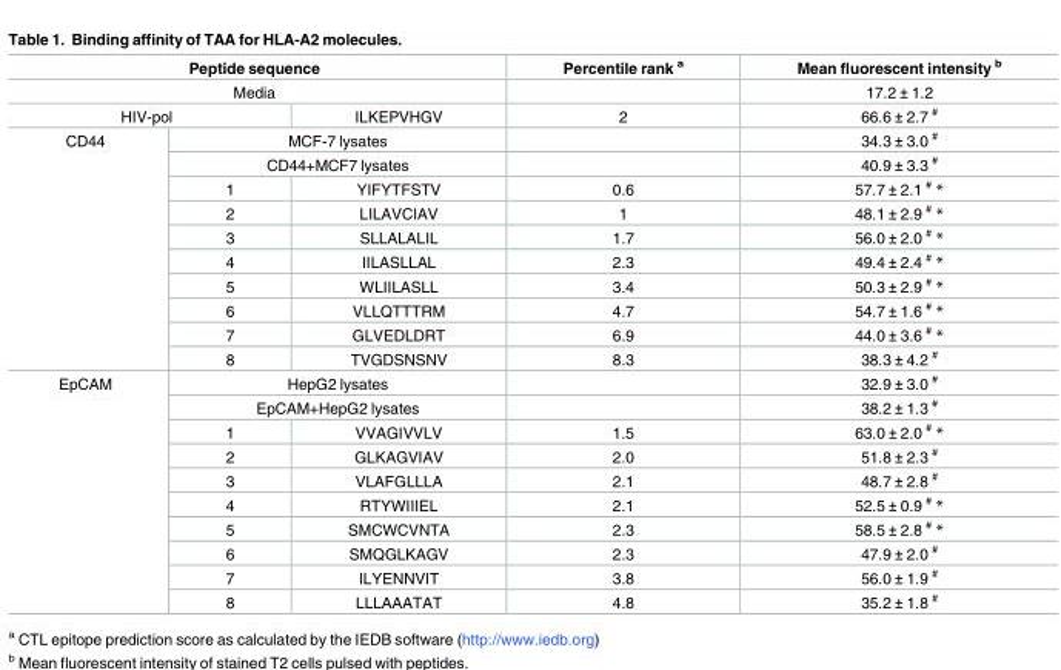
<table><thead><tr><td colspan="3">Peptide sequence</td><td>Percentile rank <sup>a</sup></td><td>Mean fluorescent intensity <sup>b</sup></td></tr></thead><tbody><tr><td colspan="3">Media</td><td></td><td>17.2 ± 1.2</td></tr><tr><td colspan="2">HIV-pol</td><td>ILKEPVHGV</td><td>2</td><td>66.6 ± 2.7 <sup>#</sup></td></tr><tr><td rowspan="10">CD44</td><td colspan="2">MCF-7 lysates</td><td></td><td>34.3 ± 3.0 <sup>#</sup></td></tr><tr><td colspan="2">CD44+MCF7 lysates</td><td></td><td>40.9 ± 3.3 <sup>#</sup></td></tr><tr><td>1</td><td>YIFYTFSTV</td><td>0.6</td><td>57.7 ± 2.1 <sup>#</sup> *</td></tr><tr><td>2</td><td>LILAVCIAV</td><td>1</td><td>48.1 ± 2.9 <sup>#</sup> *</td></tr><tr><td>3</td><td>SLLALALIL</td><td>1.7</td><td>56.0 ± 2.0 <sup>#</sup> *</td></tr><tr><td>4</td><td>IILASLLAL</td><td>2.3</td><td>49.4 ± 2.4 <sup>#</sup> *</td></tr><tr><td>5</td><td>WLIILASLL</td><td>3.4</td><td>50.3 ± 2.9 <sup>#</sup> *</td></tr><tr><td>6</td><td>VLLQTTTRM</td><td>4.7</td><td>54.7 ± 1.6 <sup>#</sup> *</td></tr><tr><td>7</td><td>GLVEDLDRT</td><td>6.9</td><td>44.0 ± 3.6 <sup>#</sup> *</td></tr><tr><td>8</td><td>TVGDSNSNV</td><td>8.3</td><td>38.3 ± 4.2 <sup>#</sup></td></tr><tr><td rowspan="10">EpCAM</td><td colspan="2">HepG2 lysates</td><td></td><td>32.9 ± 3.0 <sup>#</sup></td></tr><tr><td colspan="2">EpCAM+HepG2 lysates</td><td></td><td>38.2 ± 1.3 <sup>#</sup></td></tr><tr><td>1</td><td>VVAGIVVLV</td><td>1.5</td><td>63.0 ± 2.0 <sup>#</sup> *</td></tr><tr><td>2</td><td>GLKAGVIAV</td><td>2.0</td><td>51.8 ± 2.3 <sup>#</sup></td></tr><tr><td>3</td><td>VLAFGLLLA</td><td>2.1</td><td>48.7 ± 2.8 <sup>#</sup></td></tr><tr><td>4</td><td>RTYWIIIEL</td><td>2.1</td><td>52.5 ± 0.9 <sup>#</sup> *</td></tr><tr><td>5</td><td>SMCWCVNTA</td><td>2.3</td><td>58.5 ± 2.8 <sup>#</sup> *</td></tr><tr><td>6</td><td>SMQGLKAGV</td><td>2.3</td><td>47.9 ± 2.0 <sup>#</sup></td></tr><tr><td>7</td><td>ILYENNVIT</td><td>3.8</td><td>56.0 ± 1.9 <sup>#</sup></td></tr><tr><td>8</td><td>LLLAAATAT</td><td>4.8</td><td>35.2 ± 1.8 <sup>#</sup></td></tr></tbody></table>